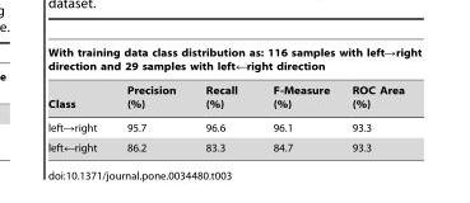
<table><thead><tr><td colspan="5">With training data class distribution as: 116 samples with left→right direction and 29 samples with left←right direction</td></tr><tr><td>Class</td><td>Precision (%)</td><td>Recall (%)</td><td>F-Measure (%)</td><td>ROC Area (%)</td></tr></thead><tbody><tr><td>left→right</td><td>95.7</td><td>96.6</td><td>96.1</td><td>93.3</td></tr><tr><td>left←right</td><td>86.2</td><td>83.3</td><td>84.7</td><td>93.3</td></tr></tbody></table>